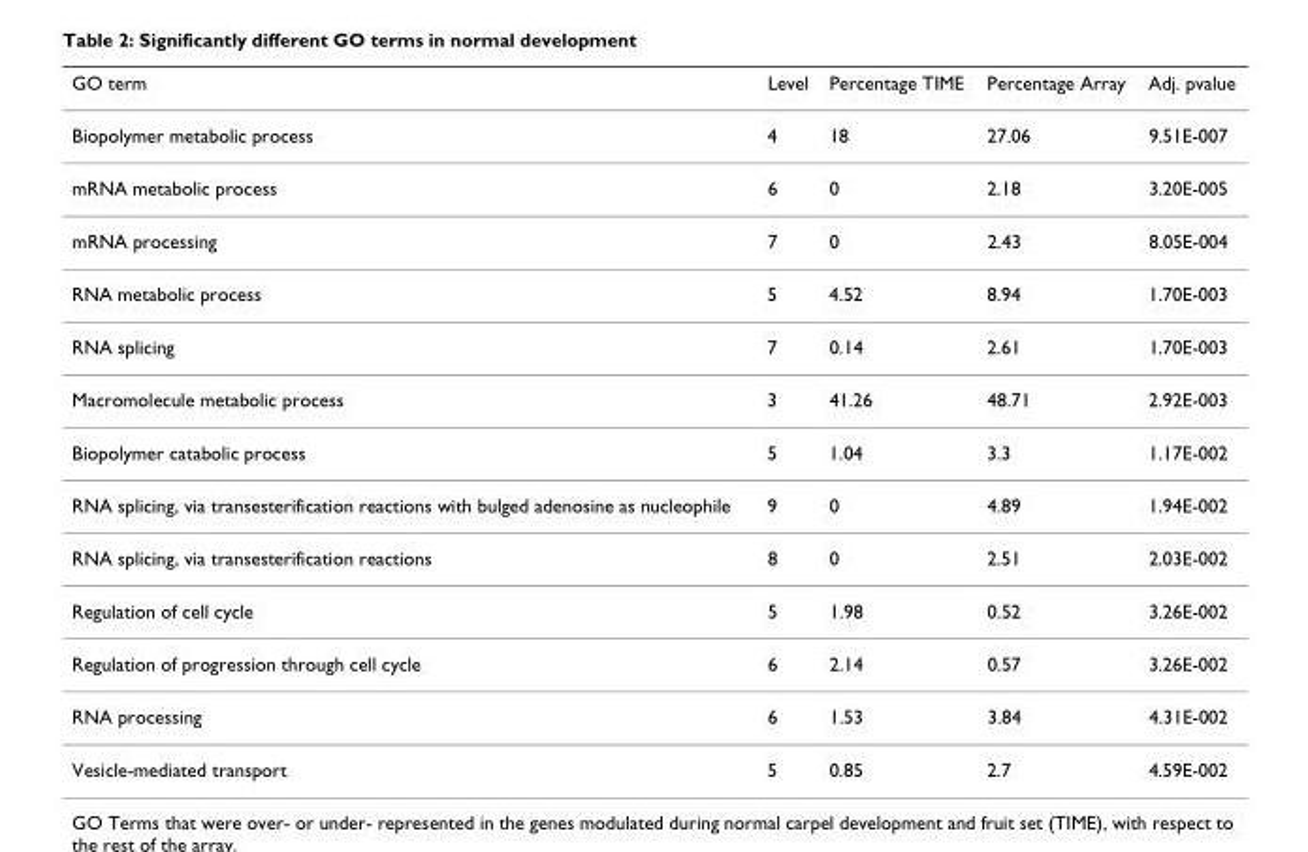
<table><thead><tr><td>GO term</td><td>Level</td><td>Percentage TIME</td><td>Percentage Array</td><td>Adj. pvalue</td></tr></thead><tbody><tr><td>Biopolymer metabolic process</td><td>4</td><td>18</td><td>27.06</td><td>9.51E-007</td></tr><tr><td>mRNA metabolic process</td><td>6</td><td>0</td><td>2.18</td><td>3.20E-005</td></tr><tr><td>mRNA processing</td><td>7</td><td>0</td><td>2.43</td><td>8.05E-004</td></tr><tr><td>RNA metabolic process</td><td>5</td><td>4.52</td><td>8.94</td><td>1.70E-003</td></tr><tr><td>RNA splicing</td><td>7</td><td>0.14</td><td>2.61</td><td>1.70E-003</td></tr><tr><td>Macromolecule metabolic process</td><td>3</td><td>41.26</td><td>48.71</td><td>2.92E-003</td></tr><tr><td>Biopolymer catabolic process</td><td>5</td><td>1.04</td><td>3.3</td><td>1.17E-002</td></tr><tr><td>RNA splicing, via transesterification reactions with bulged adenosine as nucleophile</td><td>9</td><td>0</td><td>4.89</td><td>1.94E-002</td></tr><tr><td>RNA splicing, via transesterification reactions</td><td>8</td><td>0</td><td>2.51</td><td>2.03E-002</td></tr><tr><td>Regulation of cell cycle</td><td>5</td><td>1.98</td><td>0.52</td><td>3.26E-002</td></tr><tr><td>Regulation of progression through cell cycle</td><td>6</td><td>2.14</td><td>0.57</td><td>3.26E-002</td></tr><tr><td>RNA processing</td><td>6</td><td>1.53</td><td>3.84</td><td>4.31E-002</td></tr><tr><td>Vesicle-mediated transport</td><td>5</td><td>0.85</td><td>2.7</td><td>4.59E-002</td></tr></tbody></table>